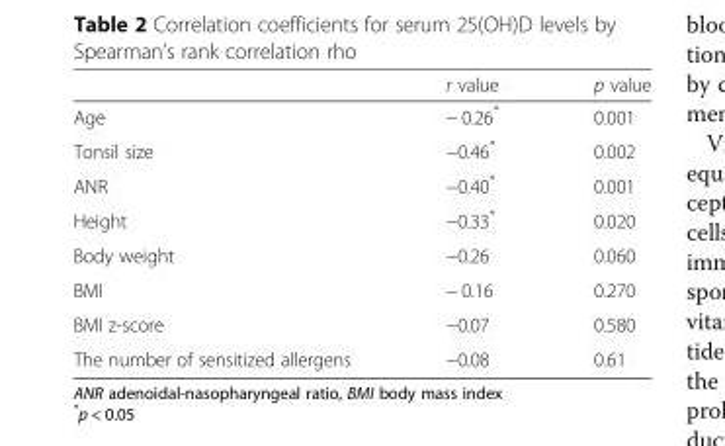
<table><thead><tr><td></td><td>r value</td><td>p value</td></tr></thead><tbody><tr><td>Age</td><td>− 0.26*</td><td>0.001</td></tr><tr><td>Tonsil size</td><td>−0.46*</td><td>0.002</td></tr><tr><td>ANR</td><td>−0.40*</td><td>0.001</td></tr><tr><td>Height</td><td>−0.33*</td><td>0.020</td></tr><tr><td>Body weight</td><td>−0.26</td><td>0.060</td></tr><tr><td>BMI</td><td>− 0.16</td><td>0.270</td></tr><tr><td>BMI z-score</td><td>−0.07</td><td>0.580</td></tr><tr><td>The number of sensitized allergens</td><td>−0.08</td><td>0.61</td></tr></tbody></table>